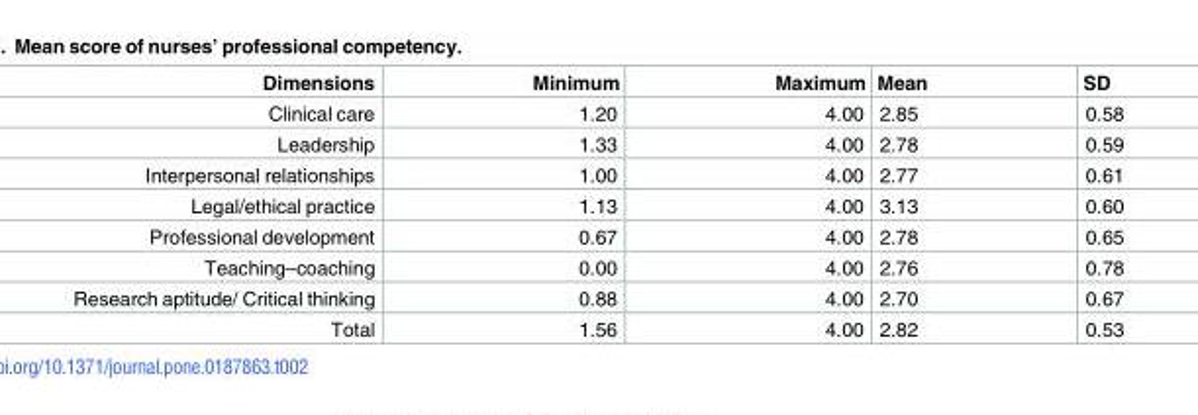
<table><thead><tr><td>Dimensions</td><td>Minimum</td><td>Maximum</td><td>Mean</td><td>SD</td></tr></thead><tbody><tr><td>Clinical care</td><td>1.20</td><td>4.00</td><td>2.85</td><td>0.58</td></tr><tr><td>Leadership</td><td>1.33</td><td>4.00</td><td>2.78</td><td>0.59</td></tr><tr><td>Interpersonal relationships</td><td>1.00</td><td>4.00</td><td>2.77</td><td>0.61</td></tr><tr><td>Legal/ethical practice</td><td>1.13</td><td>4.00</td><td>3.13</td><td>0.60</td></tr><tr><td>Professional development</td><td>0.67</td><td>4.00</td><td>2.78</td><td>0.65</td></tr><tr><td>Teaching–coaching</td><td>0.00</td><td>4.00</td><td>2.76</td><td>0.78</td></tr><tr><td>Research aptitude/ Critical thinking</td><td>0.88</td><td>4.00</td><td>2.70</td><td>0.67</td></tr><tr><td>Total</td><td>1.56</td><td>4.00</td><td>2.82</td><td>0.53</td></tr></tbody></table>